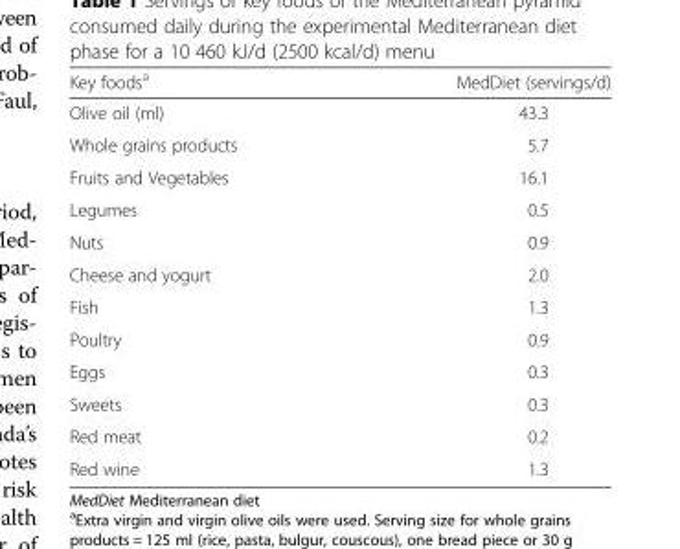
<table><thead><tr><td>Key foods<sup>a</sup></td><td>MedDiet (servings/d)</td></tr></thead><tbody><tr><td>Olive oil (ml)</td><td>43.3</td></tr><tr><td>Whole grains products</td><td>5.7</td></tr><tr><td>Fruits and Vegetables</td><td>16.1</td></tr><tr><td>Legumes</td><td>0.5</td></tr><tr><td>Nuts</td><td>0.9</td></tr><tr><td>Cheese and yogurt</td><td>2.0</td></tr><tr><td>Fish</td><td>1.3</td></tr><tr><td>Poultry</td><td>0.9</td></tr><tr><td>Eggs</td><td>0.3</td></tr><tr><td>Sweets</td><td>0.3</td></tr><tr><td>Red meat</td><td>0.2</td></tr><tr><td>Red wine</td><td>1.3</td></tr></tbody></table>